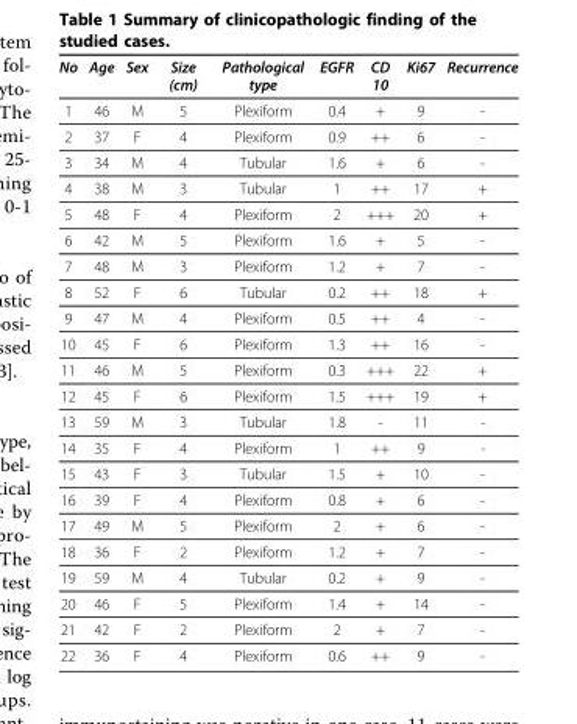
<table><thead><tr><td>No</td><td>Age</td><td>Sex</td><td>Size (cm)</td><td>Pathological type</td><td>EGFR</td><td>CD 10</td><td>Ki67</td><td>Recurrence</td></tr></thead><tbody><tr><td>1</td><td>46</td><td>M</td><td>5</td><td>Plexiform</td><td>0.4</td><td>+</td><td>9</td><td>-</td></tr><tr><td>2</td><td>37</td><td>F</td><td>4</td><td>Plexiform</td><td>0.9</td><td>++</td><td>6</td><td>-</td></tr><tr><td>3</td><td>34</td><td>M</td><td>4</td><td>Tubular</td><td>1.6</td><td>+</td><td>6</td><td>-</td></tr><tr><td>4</td><td>38</td><td>M</td><td>3</td><td>Tubular</td><td>1</td><td>++</td><td>17</td><td>+</td></tr><tr><td>5</td><td>48</td><td>F</td><td>4</td><td>Plexiform</td><td>2</td><td>+++</td><td>20</td><td>+</td></tr><tr><td>6</td><td>42</td><td>M</td><td>5</td><td>Plexiform</td><td>1.6</td><td>+</td><td>5</td><td>-</td></tr><tr><td>7</td><td>48</td><td>M</td><td>3</td><td>Plexiform</td><td>1.2</td><td>+</td><td>7</td><td>-</td></tr><tr><td>8</td><td>52</td><td>F</td><td>6</td><td>Tubular</td><td>0.2</td><td>++</td><td>18</td><td>+</td></tr><tr><td>9</td><td>47</td><td>M</td><td>4</td><td>Plexiform</td><td>0.5</td><td>++</td><td>4</td><td>-</td></tr><tr><td>10</td><td>45</td><td>F</td><td>6</td><td>Plexiform</td><td>1.3</td><td>++</td><td>16</td><td>-</td></tr><tr><td>11</td><td>46</td><td>M</td><td>5</td><td>Plexiform</td><td>0.3</td><td>+++</td><td>22</td><td>+</td></tr><tr><td>12</td><td>45</td><td>F</td><td>6</td><td>Plexiform</td><td>1.5</td><td>+++</td><td>19</td><td>+</td></tr><tr><td>13</td><td>59</td><td>M</td><td>3</td><td>Tubular</td><td>1.8</td><td>-</td><td>11</td><td>-</td></tr><tr><td>14</td><td>35</td><td>F</td><td>4</td><td>Plexiform</td><td>1</td><td>++</td><td>9</td><td>-</td></tr><tr><td>15</td><td>43</td><td>F</td><td>3</td><td>Tubular</td><td>1.5</td><td>+</td><td>10</td><td>-</td></tr><tr><td>16</td><td>39</td><td>F</td><td>4</td><td>Plexiform</td><td>0.8</td><td>+</td><td>6</td><td>-</td></tr><tr><td>17</td><td>49</td><td>M</td><td>5</td><td>Plexiform</td><td>2</td><td>+</td><td>6</td><td>-</td></tr><tr><td>18</td><td>36</td><td>F</td><td>2</td><td>Plexiform</td><td>1.2</td><td>+</td><td>7</td><td>-</td></tr><tr><td>19</td><td>59</td><td>M</td><td>4</td><td>Tubular</td><td>0.2</td><td>+</td><td>9</td><td>-</td></tr><tr><td>20</td><td>46</td><td>F</td><td>5</td><td>Plexiform</td><td>1.4</td><td>+</td><td>14</td><td>-</td></tr><tr><td>21</td><td>42</td><td>F</td><td>2</td><td>Plexiform</td><td>2</td><td>+</td><td>7</td><td>-</td></tr><tr><td>22</td><td>36</td><td>F</td><td>4</td><td>Plexiform</td><td>0.6</td><td>++</td><td>9</td><td>-</td></tr></tbody></table>